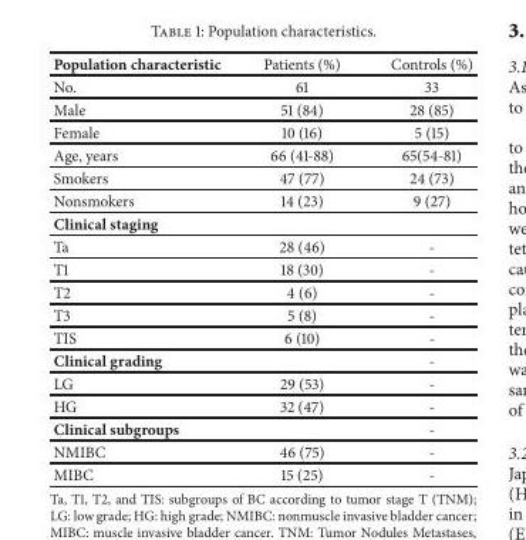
<table><thead><tr><td>Population characteristic</td><td>Patients (%)</td><td>Controls (%)</td></tr></thead><tbody><tr><td>No.</td><td>61</td><td>33</td></tr><tr><td>Male</td><td>51 (84)</td><td>28 (85)</td></tr><tr><td>Female</td><td>10 (16)</td><td>5 (15)</td></tr><tr><td>Age, years</td><td>66 (41-88)</td><td>65(54-81)</td></tr><tr><td>Smokers</td><td>47 (77)</td><td>24 (73)</td></tr><tr><td>Nonsmokers</td><td>14 (23)</td><td>9 (27)</td></tr><tr><td colspan="3">Clinical staging</td></tr><tr><td>Ta</td><td>28 (46)</td><td>-</td></tr><tr><td>T1</td><td>18 (30)</td><td>-</td></tr><tr><td>T2</td><td>4 (6)</td><td>-</td></tr><tr><td>T3</td><td>5 (8)</td><td>-</td></tr><tr><td>TIS</td><td>6 (10)</td><td>-</td></tr><tr><td>Clinical grading</td><td></td><td>-</td></tr><tr><td>LG</td><td>29 (53)</td><td>-</td></tr><tr><td>HG</td><td>32 (47)</td><td>-</td></tr><tr><td>Clinical subgroups</td><td></td><td>-</td></tr><tr><td>NMIBC</td><td>46 (75)</td><td>-</td></tr><tr><td>MIBC</td><td>15 (25)</td><td>-</td></tr></tbody></table>